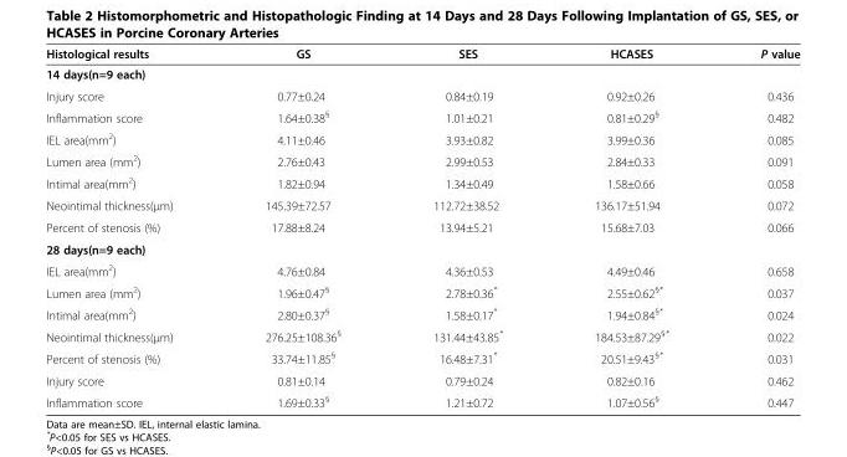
<table><thead><tr><td>Histological results</td><td>GS</td><td>SES</td><td>HCASES</td><td>P value</td></tr></thead><tbody><tr><td colspan="5">14 days(n=9 each)</td></tr><tr><td>Injury score</td><td>0.77±0.24</td><td>0.84±0.19</td><td>0.92±0.26</td><td>0.436</td></tr><tr><td>Inflammation score</td><td>1.64±0.38<sup>§</sup></td><td>1.01±0.21</td><td>0.81±0.29<sup>§</sup></td><td>0.482</td></tr><tr><td>IEL area(mm<sup>2</sup>)</td><td>4.11±0.46</td><td>3.93±0.82</td><td>3.99±0.36</td><td>0.085</td></tr><tr><td>Lumen area (mm<sup>2</sup>)</td><td>2.76±0.43</td><td>2.99±0.53</td><td>2.84±0.33</td><td>0.091</td></tr><tr><td>Intimal area(mm<sup>2</sup>)</td><td>1.82±0.94</td><td>1.34±0.49</td><td>1.58±0.66</td><td>0.058</td></tr><tr><td>Neointimal thickness(μm)</td><td>145.39±72.57</td><td>112.72±38.52</td><td>136.17±51.94</td><td>0.072</td></tr><tr><td>Percent of stenosis (%)</td><td>17.88±8.24</td><td>13.94±5.21</td><td>15.68±7.03</td><td>0.066</td></tr><tr><td colspan="5">28 days(n=9 each)</td></tr><tr><td>IEL area(mm<sup>2</sup>)</td><td>4.76±0.84</td><td>4.36±0.53</td><td>4.49±0.46</td><td>0.658</td></tr><tr><td>Lumen area (mm<sup>2</sup>)</td><td>1.96±0.47<sup>§</sup></td><td>2.78±0.36*</td><td>2.55±0.62<sup>§*</sup></td><td>0.037</td></tr><tr><td>Intimal area(mm<sup>2</sup>)</td><td>2.80±0.37<sup>§</sup></td><td>1.58±0.17*</td><td>1.94±0.84<sup>§*</sup></td><td>0.024</td></tr><tr><td>Neointimal thickness(μm)</td><td>276.25±108.36<sup>§</sup></td><td>131.44±43.85*</td><td>184.53±87.29<sup>§*</sup></td><td>0.022</td></tr><tr><td>Percent of stenosis (%)</td><td>33.74±11.85<sup>§</sup></td><td>16.48±7.31*</td><td>20.51±9.43<sup>§*</sup></td><td>0.031</td></tr><tr><td>Injury score</td><td>0.81±0.14</td><td>0.79±0.24</td><td>0.82±0.16</td><td>0.462</td></tr><tr><td>Inflammation score</td><td>1.69±0.33<sup>§</sup></td><td>1.21±0.72</td><td>1.07±0.56<sup>§</sup></td><td>0.447</td></tr></tbody></table>